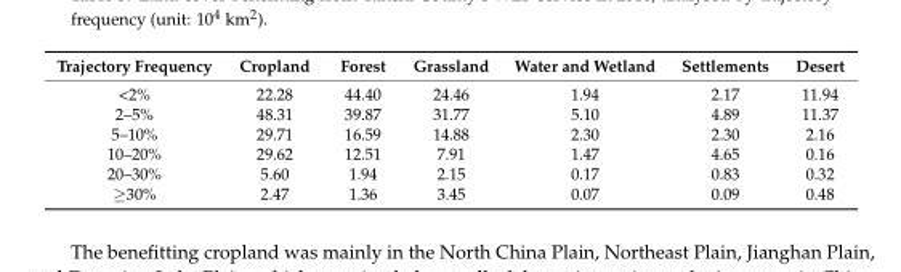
<table><thead><tr><td>Trajectory Frequency</td><td>Cropland</td><td>Forest</td><td>Grassland</td><td>Water and Wetland</td><td>Settlements</td><td>Desert</td></tr></thead><tbody><tr><td>&lt;2%</td><td>22.28</td><td>44.40</td><td>24.46</td><td>1.94</td><td>2.17</td><td>11.94</td></tr><tr><td>2–5%</td><td>48.31</td><td>39.87</td><td>31.77</td><td>5.10</td><td>4.89</td><td>11.37</td></tr><tr><td>5–10%</td><td>29.71</td><td>16.59</td><td>14.88</td><td>2.30</td><td>2.30</td><td>2.16</td></tr><tr><td>10–20%</td><td>29.62</td><td>12.51</td><td>7.91</td><td>1.47</td><td>4.65</td><td>0.16</td></tr><tr><td>20–30%</td><td>5.60</td><td>1.94</td><td>2.15</td><td>0.17</td><td>0.83</td><td>0.32</td></tr><tr><td>≥30%</td><td>2.47</td><td>1.36</td><td>3.45</td><td>0.07</td><td>0.09</td><td>0.48</td></tr></tbody></table>